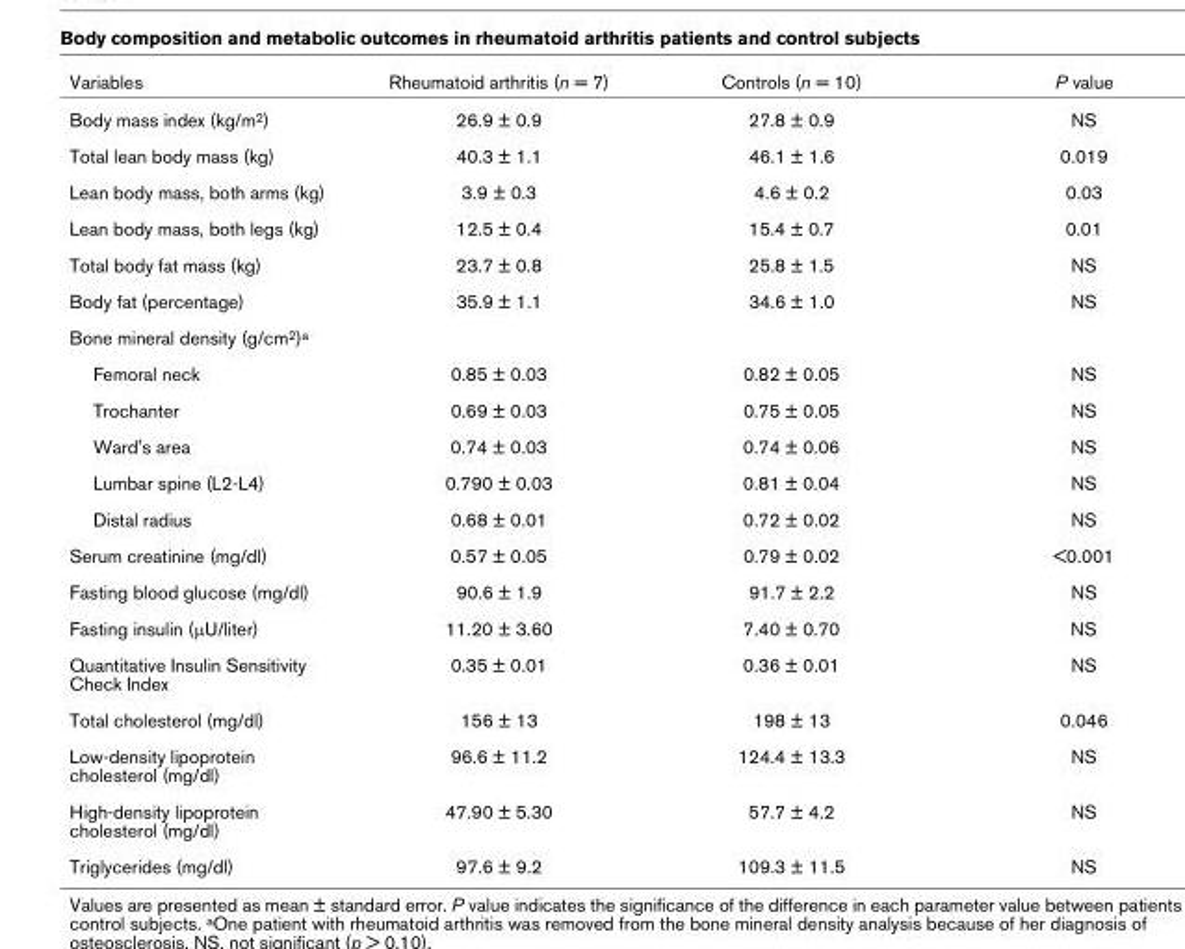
<table><thead><tr><td>Variables</td><td>Rheumatoid arthritis (n = 7)</td><td>Controls (n = 10)</td><td>P value</td></tr></thead><tbody><tr><td>Body mass index (kg/m<sup>2</sup>)</td><td>26.9 ± 0.9</td><td>27.8 ± 0.9</td><td>NS</td></tr><tr><td>Total lean body mass (kg)</td><td>40.3 ± 1.1</td><td>46.1 ± 1.6</td><td>0.019</td></tr><tr><td>Lean body mass, both arms (kg)</td><td>3.9 ± 0.3</td><td>4.6 ± 0.2</td><td>0.03</td></tr><tr><td>Lean body mass, both legs (kg)</td><td>12.5 ± 0.4</td><td>15.4 ± 0.7</td><td>0.01</td></tr><tr><td>Total body fat mass (kg)</td><td>23.7 ± 0.8</td><td>25.8 ± 1.5</td><td>NS</td></tr><tr><td>Body fat (percentage)</td><td>35.9 ± 1.1</td><td>34.6 ± 1.0</td><td>NS</td></tr><tr><td colspan="4">Bone mineral density (g/cm<sup>2</sup>)<sup>a</sup></td></tr><tr><td>Femoral neck</td><td>0.85 ± 0.03</td><td>0.82 ± 0.05</td><td>NS</td></tr><tr><td>Trochanter</td><td>0.69 ± 0.03</td><td>0.75 ± 0.05</td><td>NS</td></tr><tr><td>Ward&#x27;s area</td><td>0.74 ± 0.03</td><td>0.74 ± 0.06</td><td>NS</td></tr><tr><td>Lumbar spine (L2-L4)</td><td>0.790 ± 0.03</td><td>0.81 ± 0.04</td><td>NS</td></tr><tr><td>Distal radius</td><td>0.68 ± 0.01</td><td>0.72 ± 0.02</td><td>NS</td></tr><tr><td>Serum creatinine (mg/dl)</td><td>0.57 ± 0.05</td><td>0.79 ± 0.02</td><td>&lt;0.001</td></tr><tr><td>Fasting blood glucose (mg/dl)</td><td>90.6 ± 1.9</td><td>91.7 ± 2.2</td><td>NS</td></tr><tr><td>Fasting insulin (µU/liter)</td><td>11.20 ± 3.60</td><td>7.40 ± 0.70</td><td>NS</td></tr><tr><td>Quantitative Insulin Sensitivity Check Index</td><td>0.35 ± 0.01</td><td>0.36 ± 0.01</td><td>NS</td></tr><tr><td>Total cholesterol (mg/dl)</td><td>156 ± 13</td><td>198 ± 13</td><td>0.046</td></tr><tr><td>Low-density lipoprotein cholesterol (mg/dl)</td><td>96.6 ± 11.2</td><td>124.4 ± 13.3</td><td>NS</td></tr><tr><td>High-density lipoprotein cholesterol (mg/dl)</td><td>47.90 ± 5.30</td><td>57.7 ± 4.2</td><td>NS</td></tr><tr><td>Triglycerides (mg/dl)</td><td>97.6 ± 9.2</td><td>109.3 ± 11.5</td><td>NS</td></tr></tbody></table>